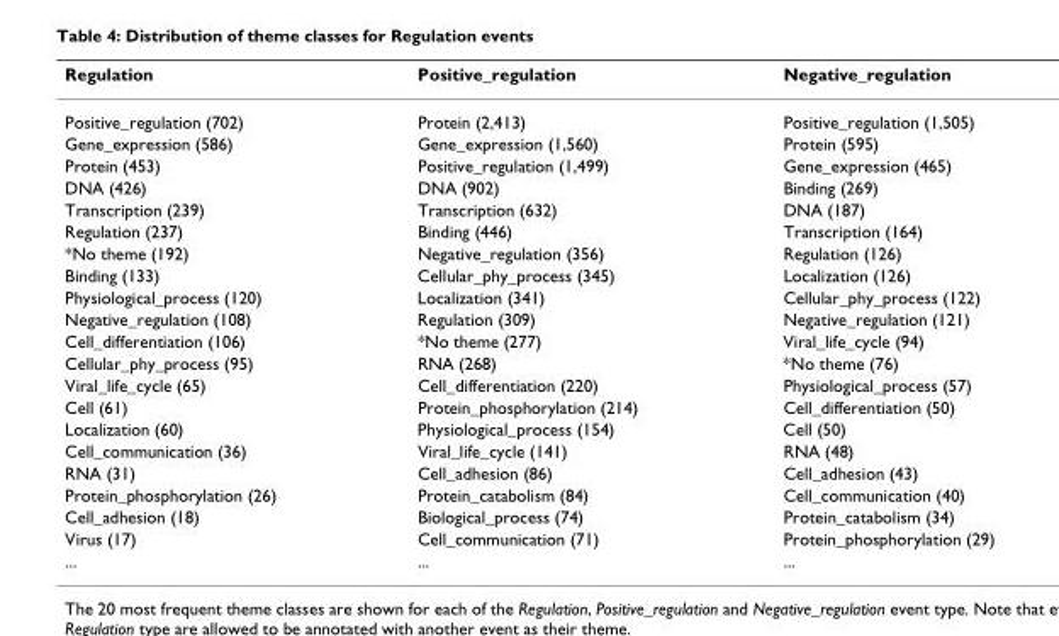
<table><thead><tr><td>Regulation</td><td>Positive_regulation</td><td>Negative_regulation</td></tr></thead><tbody><tr><td>Positive_regulation (702)</td><td>Protein (2,413)</td><td>Positive_regulation (1,505)</td></tr><tr><td>Gene_expression (586)</td><td>Gene_expression (1,560)</td><td>Protein (595)</td></tr><tr><td>Protein (453)</td><td>Positive_regulation (1,499)</td><td>Gene_expression (465)</td></tr><tr><td>DNA (426)</td><td>DNA (902)</td><td>Binding (269)</td></tr><tr><td>Transcription (239)</td><td>Transcription (632)</td><td>DNA (187)</td></tr><tr><td>Regulation (237)</td><td>Binding (446)</td><td>Transcription (164)</td></tr><tr><td>*No theme (192)</td><td>Negative_regulation (356)</td><td>Regulation (126)</td></tr><tr><td>Binding (133)</td><td>Cellular_phy_process (345)</td><td>Localization (126)</td></tr><tr><td>Physiological_process (120)</td><td>Localization (341)</td><td>Cellular_phy_process (122)</td></tr><tr><td>Negative_regulation (108)</td><td>Regulation (309)</td><td>Negative_regulation (121)</td></tr><tr><td>Cell_differentiation (106)</td><td>*No theme (277)</td><td>Viral_life_cycle (94)</td></tr><tr><td>Cellular_phy_process (95)</td><td>RNA (268)</td><td>*No theme (76)</td></tr><tr><td>Viral_life_cycle (65)</td><td>Cell_differentiation (220)</td><td>Physiological_process (57)</td></tr><tr><td>Cell (61)</td><td>Protein_phosphorylation (214)</td><td>Cell_differentiation (50)</td></tr><tr><td>Localization (60)</td><td>Physiological_process (154)</td><td>Cell (50)</td></tr><tr><td>Cell_communication (36)</td><td>Viral_life_cycle (141)</td><td>RNA (48)</td></tr><tr><td>RNA (31)</td><td>Cell_adhesion (86)</td><td>Cell_adhesion (43)</td></tr><tr><td>Protein_phosphorylation (26)</td><td>Protein_catabolism (84)</td><td>Cell_communication (40)</td></tr><tr><td>Cell_adhesion (18)</td><td>Biological_process (74)</td><td>Protein_catabolism (34)</td></tr><tr><td>Virus (17)</td><td>Cell_communication (71)</td><td>Protein_phosphorylation (29)</td></tr><tr><td>...</td><td>...</td><td>...</td></tr></tbody></table>